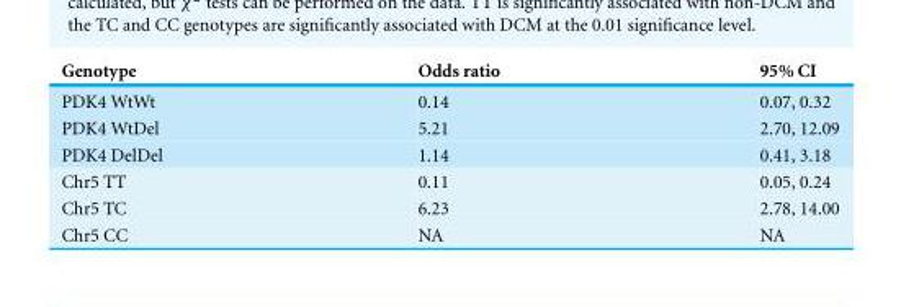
<table><thead><tr><td>Genotype</td><td>Odds ratio</td><td>95% CI</td></tr></thead><tbody><tr><td>PDK4 WtWt</td><td>0.14</td><td>0.07, 0.32</td></tr><tr><td>PDK4 WtDel</td><td>5.21</td><td>2.70, 12.09</td></tr><tr><td>PDK4 DelDel</td><td>1.14</td><td>0.41, 3.18</td></tr><tr><td>Chr5 TT</td><td>0.11</td><td>0.05, 0.24</td></tr><tr><td>Chr5 TC</td><td>6.23</td><td>2.78, 14.00</td></tr><tr><td>Chr5 CC</td><td>NA</td><td>NA</td></tr></tbody></table>